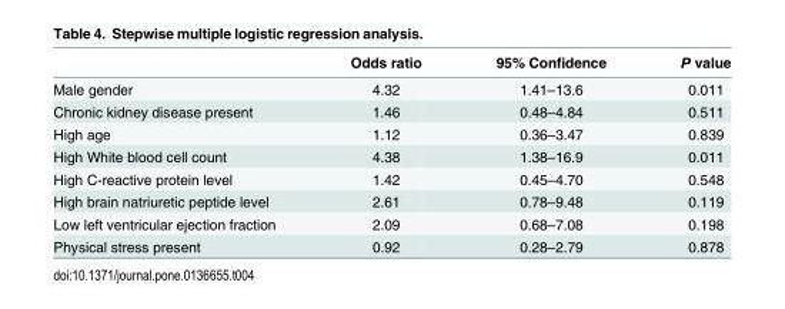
<table><thead><tr><td></td><td>Odds ratio</td><td>95% Confidence</td><td>P value</td></tr></thead><tbody><tr><td>Male gender</td><td>4.32</td><td>1.41–13.6</td><td>0.011</td></tr><tr><td>Chronic kidney disease present</td><td>1.46</td><td>0.48–4.84</td><td>0.511</td></tr><tr><td>High age</td><td>1.12</td><td>0.36–3.47</td><td>0.839</td></tr><tr><td>High White blood cell count</td><td>4.38</td><td>1.38–16.9</td><td>0.011</td></tr><tr><td>High C-reactive protein level</td><td>1.42</td><td>0.45–4.70</td><td>0.548</td></tr><tr><td>High brain natriuretic peptide level</td><td>2.61</td><td>0.78–9.48</td><td>0.119</td></tr><tr><td>Low left ventricular ejection fraction</td><td>2.09</td><td>0.68–7.08</td><td>0.198</td></tr><tr><td>Physical stress present</td><td>0.92</td><td>0.28–2.79</td><td>0.878</td></tr></tbody></table>